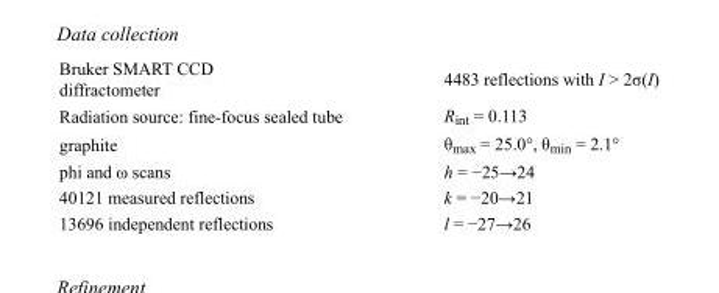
<table><tbody><tr><td>Bruker SMART CCD diffractometer</td><td>4483 reflections with I &gt; 2σ(I)</td></tr><tr><td>Radiation source: fine-focus sealed tube</td><td>R<sub>int</sub> = 0.113</td></tr><tr><td>graphite</td><td>θ<sub>max</sub> = 25.0°, θ<sub>min</sub> = 2.1°</td></tr><tr><td>phi and ω scans</td><td>h = −25→24</td></tr><tr><td>40121 measured reflections</td><td>k = −20→21</td></tr><tr><td>13696 independent reflections</td><td>l = −27→26</td></tr></tbody></table>